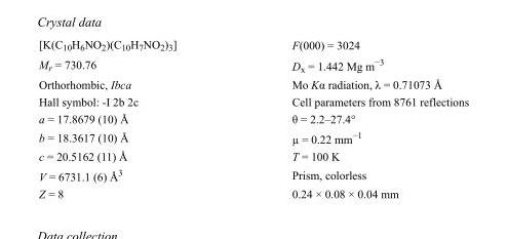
<table><tbody><tr><td>[K(C<sub>10</sub>H<sub>6</sub>NO<sub>2</sub>)(C<sub>10</sub>H<sub>7</sub>NO<sub>2</sub>)<sub>3</sub>]</td><td>F(000) = 3024</td></tr><tr><td>M<sub>r</sub> = 730.76</td><td>D<sub>x</sub> = 1.442 Mg m<sup>−3</sup></td></tr><tr><td>Orthorhombic, Ibca</td><td>Mo Kα radiation, λ = 0.71073 Å</td></tr><tr><td>Hall symbol: -I 2b 2c</td><td>Cell parameters from 8761 reflections</td></tr><tr><td>a = 17.8679 (10) Å</td><td>θ = 2.2–27.4°</td></tr><tr><td>b = 18.3617 (10) Å</td><td>µ = 0.22 mm<sup>−1</sup></td></tr><tr><td>c = 20.5162 (11) Å</td><td>T = 100 K</td></tr><tr><td>V = 6731.1 (6) Å<sup>3</sup></td><td>Prism, colorless</td></tr><tr><td>Z = 8</td><td>0.24 × 0.08 × 0.04 mm</td></tr></tbody></table>